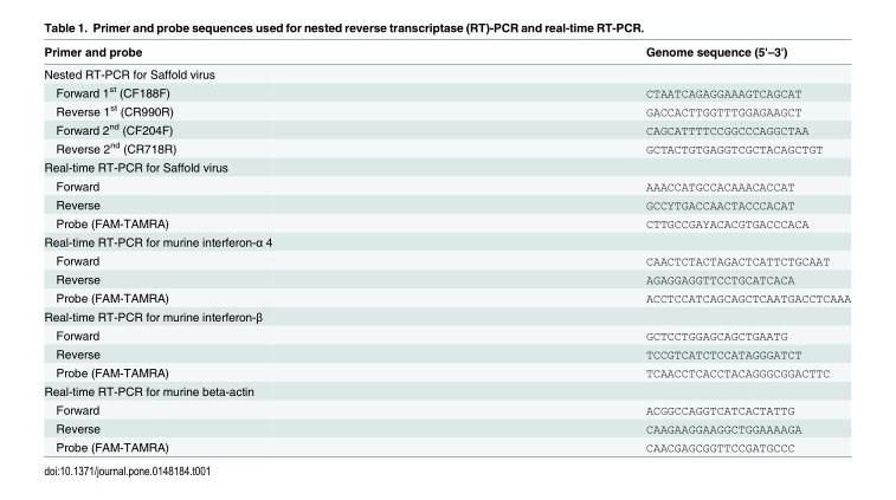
<table><thead><tr><td>Primer and probe</td><td>Genome sequence (5&#x27;–3&#x27;)</td></tr></thead><tbody><tr><td colspan="2">Nested RT-PCR for Saffold virus</td></tr><tr><td>Forward 1<sup>st</sup> (CF188F)</td><td>CTAATCAGAGGAAAGTCAGCAT</td></tr><tr><td>Reverse 1<sup>st</sup> (CR990R)</td><td>GACCACTTGGTTTGGAGAAGCT</td></tr><tr><td>Forward 2<sup>nd</sup> (CF204F)</td><td>CAGCATTTTCCGGCCCAGGCTAA</td></tr><tr><td>Reverse 2<sup>nd</sup> (CR718R)</td><td>GCTACTGTGAGGTCGCTACAGCTGT</td></tr><tr><td colspan="2">Real-time RT-PCR for Saffold virus</td></tr><tr><td>Forward</td><td>AAACCATGCCACAAACACCAT</td></tr><tr><td>Reverse</td><td>GCCYTGACCAACTACCCACAT</td></tr><tr><td>Probe (FAM-TAMRA)</td><td>CTTGCCGAYACACGTGACCCACA</td></tr><tr><td colspan="2">Real-time RT-PCR for murine interferon-α 4</td></tr><tr><td>Forward</td><td>CAACTCTACTAGACTCATTCTGCAAT</td></tr><tr><td>Reverse</td><td>AGAGGAGGTTCCTGCATCACA</td></tr><tr><td>Probe (FAM-TAMRA)</td><td>ACCTCCATCAGCAGCTCAATGACCTCAAA</td></tr><tr><td colspan="2">Real-time RT-PCR for murine interferon-β</td></tr><tr><td>Forward</td><td>GCTCCTGGAGCAGCTGAATG</td></tr><tr><td>Reverse</td><td>TCCGTCATCTCCATAGGGATCT</td></tr><tr><td>Probe (FAM-TAMRA)</td><td>TCAACCTCACCTACAGGGCGGACTTC</td></tr><tr><td colspan="2">Real-time RT-PCR for murine beta-actin</td></tr><tr><td>Forward</td><td>ACGGCCAGGTCATCACTATTG</td></tr><tr><td>Reverse</td><td>CAAGAAGGAAGGCTGGAAAAGA</td></tr><tr><td>Probe (FAM-TAMRA)</td><td>CAACGAGCGGTTCCGATGCCC</td></tr></tbody></table>